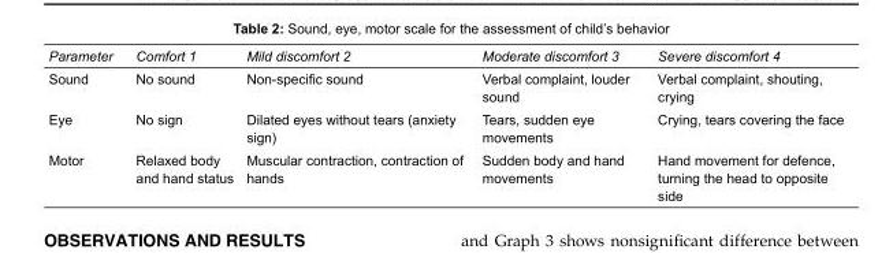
<table><tbody><tr><td>Parameter</td><td>Comfort 1</td><td>Mild discomfort 2</td><td>Moderate discomfort 3</td><td>Severe discomfort 4</td></tr><tr><td>Sound</td><td>No sound</td><td>Non-specific sound</td><td>Verbal complaint, louder sound</td><td>Verbal complaint, shouting, crying</td></tr><tr><td>Eye</td><td>No sign</td><td>Dilated eyes without tears (anxiety sign)</td><td>Tears, sudden eye movements</td><td>Crying, tears covering the face</td></tr><tr><td>Motor</td><td>Relaxed body and hand status</td><td>Muscular contraction, contraction of hands</td><td>Sudden body and hand movements</td><td>Hand movement for defence, turning the head to opposite side</td></tr></tbody></table>